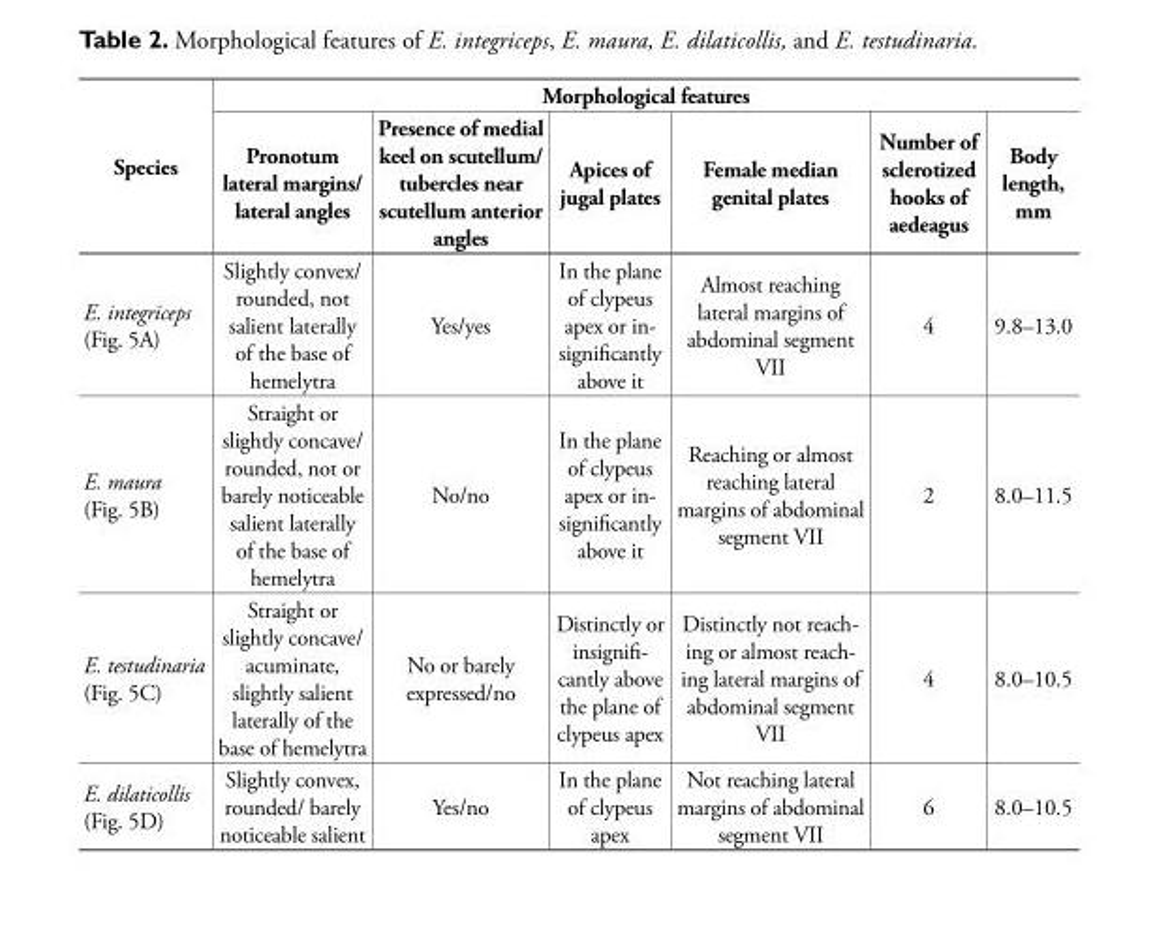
<table><thead><tr><td rowspan="2">Species</td><td colspan="6">Morphological features</td></tr><tr><td>Pronotum lateral margins/ lateral angles</td><td>Presence of medial keel on scutellum/ tubercles near scutellum anterior angles</td><td>Apices of jugal plates</td><td>Female median genital plates</td><td>Number of sclerotized hooks of aedeagus</td><td>Body length, mm</td></tr></thead><tbody><tr><td>E. integriceps (Fig. 5A)</td><td>Slightly convex/ rounded, not salient laterally of the base of hemelytra</td><td>Yes/yes</td><td>In the plane of clypeus apex or in- significantly above it</td><td>Almost reaching lateral margins of abdominal segment VII</td><td>4</td><td>9.8–13.0</td></tr><tr><td>E. maura (Fig. 5B)</td><td>Straight or slightly concave/ rounded, not or barely noticeable salient laterally of the base of hemelytra</td><td>No/no</td><td>In the plane of clypeus apex or in- significantly above it</td><td>Reaching or almost reaching lateral margins of abdominal segment VII</td><td>2</td><td>8.0–11.5</td></tr><tr><td>E. testudinaria (Fig. 5C)</td><td>Straight or slightly concave/ acuminate, slightly salient laterally of the base of hemelytra</td><td>No or barely expressed/no</td><td>Distinctly or insignifi- cantly above the plane of clypeus apex</td><td>Distinctly not reach- ing or almost reach- ing lateral margins of abdominal segment VII</td><td>4</td><td>8.0–10.5</td></tr><tr><td>E. dilaticollis (Fig. 5D)</td><td>Slightly convex, rounded/ barely noticeable salient</td><td>Yes/no</td><td>In the plane of clypeus apex</td><td>Not reaching lateral margins of abdominal segment VII</td><td>6</td><td>8.0–10.5</td></tr></tbody></table>